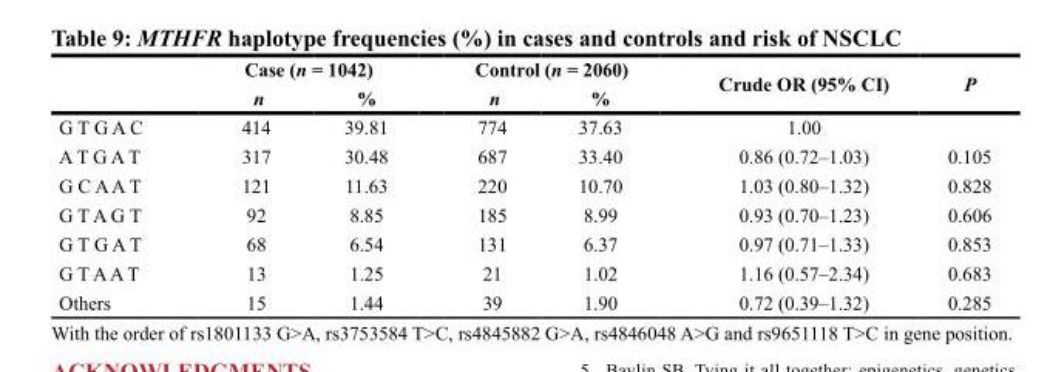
<table><thead><tr><td rowspan="2"></td><td colspan="2">Case (n = 1042)</td><td colspan="2">Control (n = 2060)</td><td rowspan="2">Crude OR (95% CI)</td><td rowspan="2">P</td></tr><tr><td>n</td><td>%</td><td>n</td><td>%</td></tr></thead><tbody><tr><td>G T G A C</td><td>414</td><td>39.81</td><td>774</td><td>37.63</td><td>1.00</td><td></td></tr><tr><td>A T G A T</td><td>317</td><td>30.48</td><td>687</td><td>33.40</td><td>0.86 (0.72–1.03)</td><td>0.105</td></tr><tr><td>G C A A T</td><td>121</td><td>11.63</td><td>220</td><td>10.70</td><td>1.03 (0.80–1.32)</td><td>0.828</td></tr><tr><td>G T A G T</td><td>92</td><td>8.85</td><td>185</td><td>8.99</td><td>0.93 (0.70–1.23)</td><td>0.606</td></tr><tr><td>G T G A T</td><td>68</td><td>6.54</td><td>131</td><td>6.37</td><td>0.97 (0.71–1.33)</td><td>0.853</td></tr><tr><td>G T A A T</td><td>13</td><td>1.25</td><td>21</td><td>1.02</td><td>1.16 (0.57–2.34)</td><td>0.683</td></tr><tr><td>Others</td><td>15</td><td>1.44</td><td>39</td><td>1.90</td><td>0.72 (0.39–1.32)</td><td>0.285</td></tr></tbody></table>